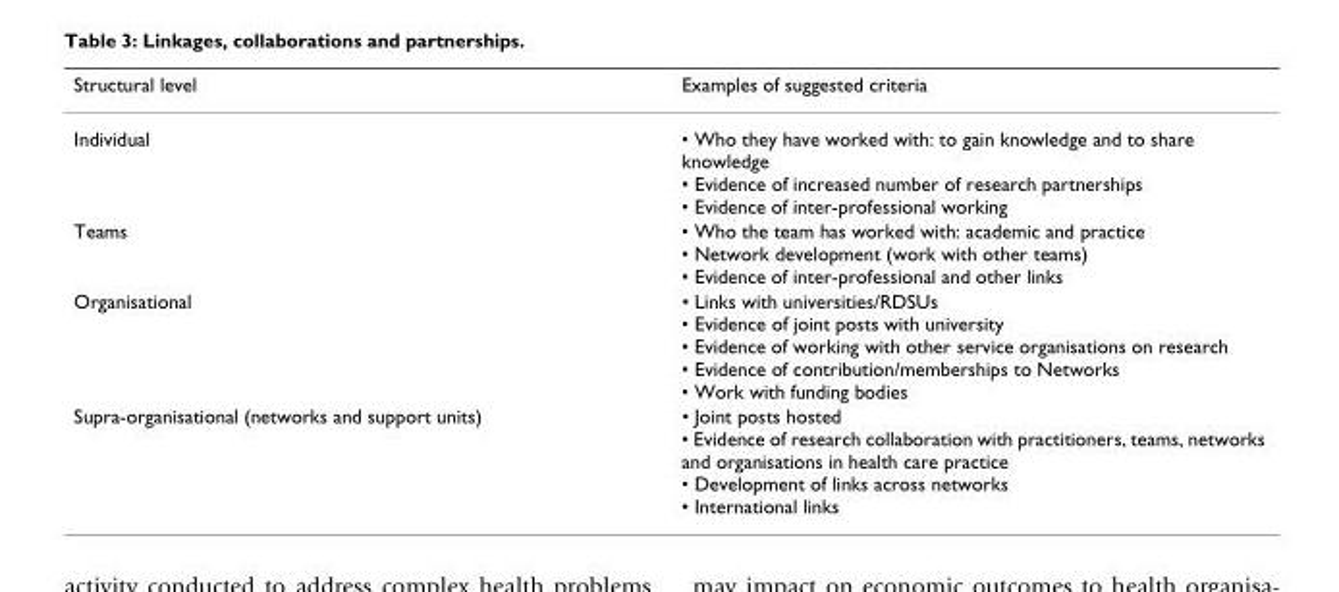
<table><thead><tr><td>Structural level</td><td>Examples of suggested criteria</td></tr></thead><tbody><tr><td>Individual</td><td>• Who they have worked with: to gain knowledge and to share knowledge • Evidence of increased number of research partnerships • Evidence of inter-professional working</td></tr><tr><td>Teams</td><td>• Who the team has worked with: academic and practice • Network development (work with other teams) • Evidence of inter-professional and other links</td></tr><tr><td>Organisational</td><td>• Links with universities/RDSUs • Evidence of joint posts with university • Evidence of working with other service organisations on research • Evidence of contribution/memberships to Networks • Work with funding bodies</td></tr><tr><td>Supra-organisational (networks and support units)</td><td>• Joint posts hosted • Evidence of research collaboration with practitioners, teams, networks and organisations in health care practice • Development of links across networks • International links</td></tr></tbody></table>